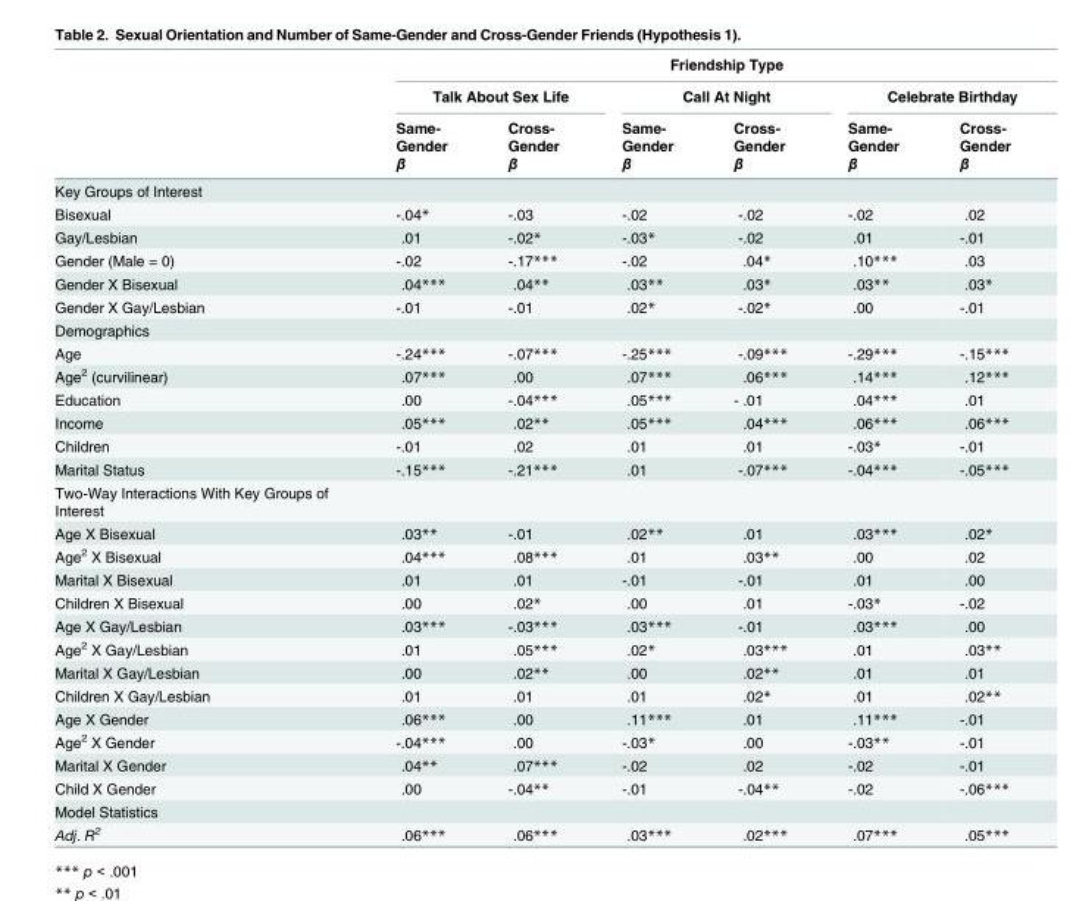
<table><thead><tr><td rowspan="4"></td><td colspan="6">Friendship Type</td></tr><tr><td colspan="2">Talk About Sex Life</td><td colspan="2">Call At Night</td><td colspan="2">Celebrate Birthday</td></tr><tr><td rowspan="2">Same- Gender β</td><td rowspan="2">Cross- Gender β</td><td rowspan="2">Same- Gender β</td><td rowspan="2">Cross- Gender β</td><td rowspan="2">Same- Gender β</td><td rowspan="2">Cross- Gender β</td></tr><tr></tr></thead><tbody><tr><td colspan="7">Key Groups of Interest</td></tr><tr><td>Bisexual</td><td>-.04*</td><td>-.03</td><td>-.02</td><td>-.02</td><td>-.02</td><td>.02</td></tr><tr><td>Gay/Lesbian</td><td>.01</td><td>-.02*</td><td>-.03*</td><td>-.02</td><td>.01</td><td>-.01</td></tr><tr><td>Gender (Male = 0)</td><td>-.02</td><td>-.17***</td><td>-.02</td><td>.04*</td><td>.10***</td><td>.03</td></tr><tr><td>Gender X Bisexual</td><td>.04***</td><td>.04**</td><td>.03**</td><td>.03*</td><td>.03**</td><td>.03*</td></tr><tr><td>Gender X Gay/Lesbian</td><td>-.01</td><td>-.01</td><td>.02*</td><td>-.02*</td><td>.00</td><td>-.01</td></tr><tr><td colspan="7">Demographics</td></tr><tr><td>Age</td><td>-.24***</td><td>-.07***</td><td>-.25***</td><td>-.09***</td><td>-.29***</td><td>-.15***</td></tr><tr><td>Age<sup>2</sup> (curvilinear)</td><td>.07***</td><td>.00</td><td>.07***</td><td>.06***</td><td>.14***</td><td>.12***</td></tr><tr><td>Education</td><td>.00</td><td>-.04***</td><td>.05***</td><td>- .01</td><td>.04***</td><td>.01</td></tr><tr><td>Income</td><td>.05***</td><td>.02**</td><td>.05***</td><td>.04***</td><td>.06***</td><td>.06***</td></tr><tr><td>Children</td><td>-.01</td><td>.02</td><td>.01</td><td>.01</td><td>-.03*</td><td>-.01</td></tr><tr><td>Marital Status</td><td>-.15***</td><td>-.21***</td><td>.01</td><td>-.07***</td><td>-.04***</td><td>-.05***</td></tr><tr><td colspan="7">Two-Way Interactions With Key Groups of Interest</td></tr><tr><td>Age X Bisexual</td><td>.03**</td><td>-.01</td><td>.02**</td><td>.01</td><td>.03***</td><td>.02*</td></tr><tr><td>Age<sup>2</sup> X Bisexual</td><td>.04***</td><td>.08***</td><td>.01</td><td>.03**</td><td>.00</td><td>.02</td></tr><tr><td>Marital X Bisexual</td><td>.01</td><td>.01</td><td>-.01</td><td>-.01</td><td>.01</td><td>.00</td></tr><tr><td>Children X Bisexual</td><td>.00</td><td>.02*</td><td>.00</td><td>.01</td><td>-.03*</td><td>-.02</td></tr><tr><td>Age X Gay/Lesbian</td><td>.03***</td><td>-.03***</td><td>.03***</td><td>-.01</td><td>.03***</td><td>.00</td></tr><tr><td>Age<sup>2</sup> X Gay/Lesbian</td><td>.01</td><td>.05***</td><td>.02*</td><td>.03***</td><td>.01</td><td>.03**</td></tr><tr><td>Marital X Gay/Lesbian</td><td>.00</td><td>.02**</td><td>.00</td><td>.02**</td><td>.01</td><td>.01</td></tr><tr><td>Children X Gay/Lesbian</td><td>.01</td><td>.01</td><td>.01</td><td>.02*</td><td>.01</td><td>.02**</td></tr><tr><td>Age X Gender</td><td>.06***</td><td>.00</td><td>.11***</td><td>.01</td><td>.11***</td><td>-.01</td></tr><tr><td>Age<sup>2</sup> X Gender</td><td>-.04***</td><td>.00</td><td>-.03*</td><td>.00</td><td>-.03**</td><td>-.01</td></tr><tr><td>Marital X Gender</td><td>.04**</td><td>.07***</td><td>-.02</td><td>.02</td><td>-.02</td><td>-.01</td></tr><tr><td>Child X Gender</td><td>.00</td><td>-.04**</td><td>-.01</td><td>-.04**</td><td>-.02</td><td>-.06***</td></tr><tr><td colspan="7">Model Statistics</td></tr><tr><td>Adj. R<sup>2</sup></td><td>.06***</td><td>.06***</td><td>.03***</td><td>.02***</td><td>.07***</td><td>.05***</td></tr></tbody></table>